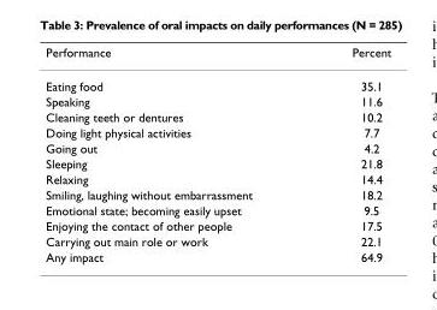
<table><thead><tr><td>Performance</td><td>Percent</td></tr></thead><tbody><tr><td>Eating food</td><td>35.1</td></tr><tr><td>Speaking</td><td>11.6</td></tr><tr><td>Cleaning teeth or dentures</td><td>10.2</td></tr><tr><td>Doing light physical activities</td><td>7.7</td></tr><tr><td>Going out</td><td>4.2</td></tr><tr><td>Sleeping</td><td>21.8</td></tr><tr><td>Relaxing</td><td>14.4</td></tr><tr><td>Smiling, laughing without embarrassment</td><td>18.2</td></tr><tr><td>Emotional state; becoming easily upset</td><td>9.5</td></tr><tr><td>Enjoying the contact of other people</td><td>17.5</td></tr><tr><td>Carrying out main role or work</td><td>22.1</td></tr><tr><td>Any impact</td><td>64.9</td></tr></tbody></table>